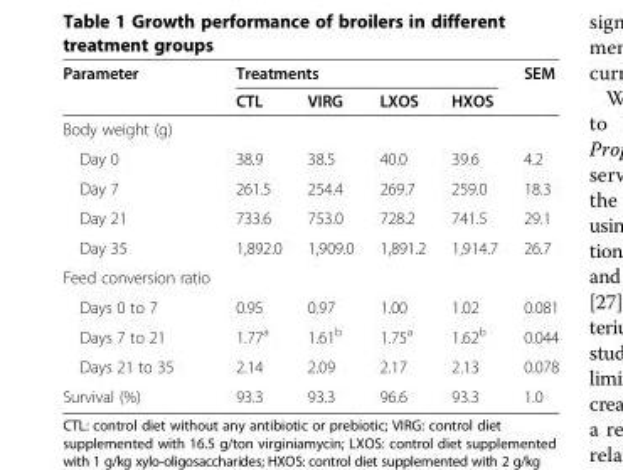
<table><thead><tr><td rowspan="2">Parameter</td><td colspan="4">Treatments</td><td rowspan="2">SEM</td></tr><tr><td>CTL</td><td>VIRG</td><td>LXOS</td><td>HXOS</td></tr></thead><tbody><tr><td colspan="6">Body weight (g)</td></tr><tr><td>Day 0</td><td>38.9</td><td>38.5</td><td>40.0</td><td>39.6</td><td>4.2</td></tr><tr><td>Day 7</td><td>261.5</td><td>254.4</td><td>269.7</td><td>259.0</td><td>18.3</td></tr><tr><td>Day 21</td><td>733.6</td><td>753.0</td><td>728.2</td><td>741.5</td><td>29.1</td></tr><tr><td>Day 35</td><td>1,892.0</td><td>1,909.0</td><td>1,891.2</td><td>1,914.7</td><td>26.7</td></tr><tr><td colspan="6">Feed conversion ratio</td></tr><tr><td>Days 0 to 7</td><td>0.95</td><td>0.97</td><td>1.00</td><td>1.02</td><td>0.081</td></tr><tr><td>Days 7 to 21</td><td>1.77<sup>a</sup></td><td>1.61<sup>b</sup></td><td>1.75<sup>a</sup></td><td>1.62<sup>b</sup></td><td>0.044</td></tr><tr><td>Days 21 to 35</td><td>2.14</td><td>2.09</td><td>2.17</td><td>2.13</td><td>0.078</td></tr><tr><td>Survival (%)</td><td>93.3</td><td>93.3</td><td>96.6</td><td>93.3</td><td>1.0</td></tr></tbody></table>